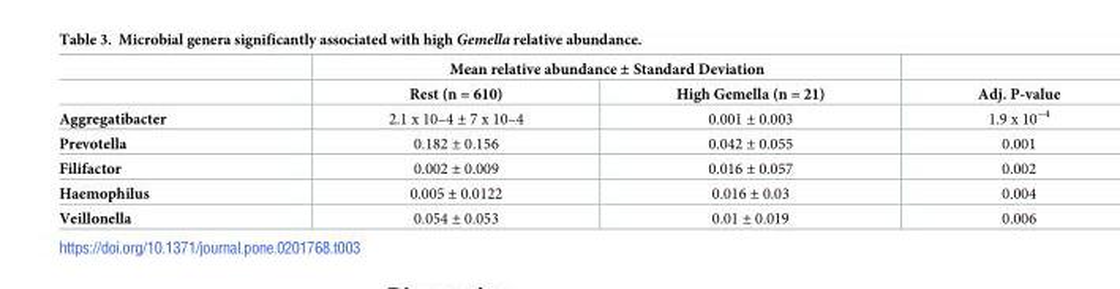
<table><thead><tr><td rowspan="2"></td><td colspan="2">Mean relative abundance ± Standard Deviation</td><td rowspan="2">Adj. P-value</td></tr><tr><td>Rest (n = 610)</td><td>High Gemella (n = 21)</td></tr></thead><tbody><tr><td>Aggregatibacter</td><td>2.1 x 10–4 ± 7 x 10–4</td><td>0.001 ± 0.003</td><td>1.9 x 10<sup>−4</sup></td></tr><tr><td>Prevotella</td><td>0.182 ± 0.156</td><td>0.042 ± 0.055</td><td>0.001</td></tr><tr><td>Filifactor</td><td>0.002 ± 0.009</td><td>0.016 ± 0.057</td><td>0.002</td></tr><tr><td>Haemophilus</td><td>0.005 ± 0.0122</td><td>0.016 ± 0.03</td><td>0.004</td></tr><tr><td>Veillonella</td><td>0.054 ± 0.053</td><td>0.01 ± 0.019</td><td>0.006</td></tr></tbody></table>